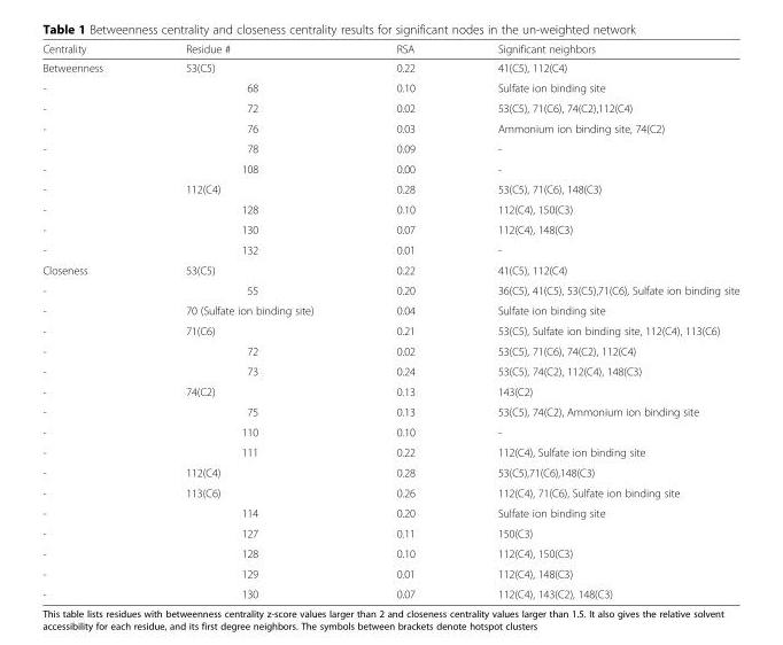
<table><thead><tr><td>Centrality</td><td>Residue #</td><td>RSA</td><td>Significant neighbors</td></tr></thead><tbody><tr><td>Betweenness</td><td>53(C5)</td><td>0.22</td><td>41(C5), 112(C4)</td></tr><tr><td>-</td><td>68</td><td>0.10</td><td>Sulfate ion binding site</td></tr><tr><td>-</td><td>72</td><td>0.02</td><td>53(C5), 71(C6), 74(C2),112(C4)</td></tr><tr><td>-</td><td>76</td><td>0.03</td><td>Ammonium ion binding site, 74(C2)</td></tr><tr><td>-</td><td>78</td><td>0.09</td><td>-</td></tr><tr><td>-</td><td>108</td><td>0.00</td><td>-</td></tr><tr><td>-</td><td>112(C4)</td><td>0.28</td><td>53(C5), 71(C6), 148(C3)</td></tr><tr><td>-</td><td>128</td><td>0.10</td><td>112(C4), 150(C3)</td></tr><tr><td>-</td><td>130</td><td>0.07</td><td>112(C4), 148(C3)</td></tr><tr><td>-</td><td>132</td><td>0.01</td><td>-</td></tr><tr><td>Closeness</td><td>53(C5)</td><td>0.22</td><td>41(C5), 112(C4)</td></tr><tr><td>-</td><td>55</td><td>0.20</td><td>36(C5), 41(C5), 53(C5),71(C6), Sulfate ion binding site</td></tr><tr><td>-</td><td>70 (Sulfate ion binding site)</td><td>0.04</td><td>Sulfate ion binding site</td></tr><tr><td>-</td><td>71(C6)</td><td>0.21</td><td>53(C5), Sulfate ion binding site, 112(C4), 113(C6)</td></tr><tr><td>-</td><td>72</td><td>0.02</td><td>53(C5), 71(C6), 74(C2), 112(C4)</td></tr><tr><td>-</td><td>73</td><td>0.24</td><td>53(C5), 74(C2), 112(C4), 148(C3)</td></tr><tr><td>-</td><td>74(C2)</td><td>0.13</td><td>143(C2)</td></tr><tr><td>-</td><td>75</td><td>0.13</td><td>53(C5), 74(C2), Ammonium ion binding site</td></tr><tr><td>-</td><td>110</td><td>0.10</td><td>-</td></tr><tr><td>-</td><td>111</td><td>0.22</td><td>112(C4), Sulfate ion binding site</td></tr><tr><td>-</td><td>112(C4)</td><td>0.28</td><td>53(C5),71(C6),148(C3)</td></tr><tr><td>-</td><td>113(C6)</td><td>0.26</td><td>112(C4), 71(C6), Sulfate ion binding site</td></tr><tr><td>-</td><td>114</td><td>0.20</td><td>Sulfate ion binding site</td></tr><tr><td>-</td><td>127</td><td>0.11</td><td>150(C3)</td></tr><tr><td>-</td><td>128</td><td>0.10</td><td>112(C4), 150(C3)</td></tr><tr><td>-</td><td>129</td><td>0.01</td><td>112(C4), 148(C3)</td></tr><tr><td>-</td><td>130</td><td>0.07</td><td>112(C4), 143(C2), 148(C3)</td></tr></tbody></table>